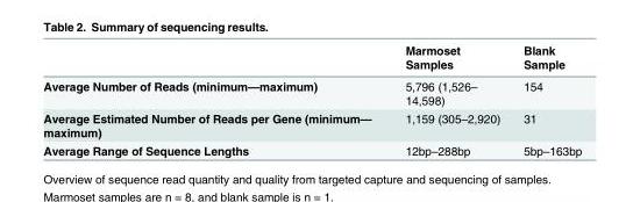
<table><thead><tr><td></td><td>Marmoset Samples</td><td>Blank Sample</td></tr></thead><tbody><tr><td>Average Number of Reads (minimum—maximum)</td><td>5,796 (1,526– 14,598)</td><td>154</td></tr><tr><td>Average Estimated Number of Reads per Gene (minimum— maximum)</td><td>1,159 (305–2,920)</td><td>31</td></tr><tr><td>Average Range of Sequence Lengths</td><td>12bp–288bp</td><td>5bp–163bp</td></tr></tbody></table>